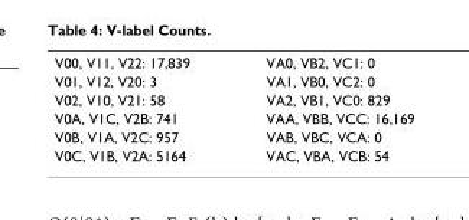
<table><tbody><tr><td>V00, V11, V22: 17,839</td><td>VA0, VB2, VC1: 0</td></tr><tr><td>V01, V12, V20: 3</td><td>VA1, VB0, VC2: 0</td></tr><tr><td>V02, V10, V21: 58</td><td>VA2, VB1, VC0: 829</td></tr><tr><td>V0A, V1C, V2B: 741</td><td>VAA, VBB, VCC: 16,169</td></tr><tr><td>V0B, V1A, V2C: 957</td><td>VAB, VBC, VCA: 0</td></tr><tr><td>V0C, V1B, V2A: 5164</td><td>VAC, VBA, VCB: 54</td></tr></tbody></table>